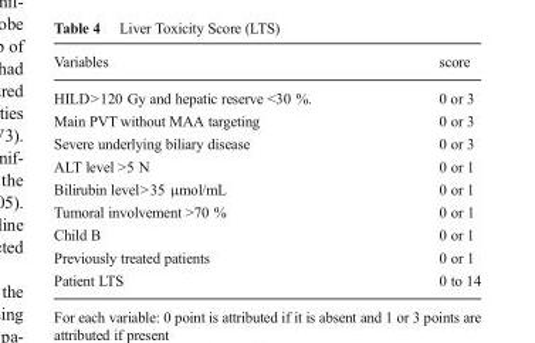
<table><thead><tr><td>Variables</td><td>score</td></tr></thead><tbody><tr><td>HILD&gt;120 Gy and hepatic reserve &lt;30 %.</td><td>0 or 3</td></tr><tr><td>Main PVT without MAA targeting</td><td>0 or 3</td></tr><tr><td>Severe underlying biliary disease</td><td>0 or 3</td></tr><tr><td>ALT level &gt;5 N</td><td>0 or 1</td></tr><tr><td>Bilirubin level&gt;35 μmol/mL</td><td>0 or 1</td></tr><tr><td>Tumoral involvement &gt;70 %</td><td>0 or 1</td></tr><tr><td>Child B</td><td>0 or 1</td></tr><tr><td>Previously treated patients</td><td>0 or 1</td></tr><tr><td>Patient LTS</td><td>0 to 14</td></tr></tbody></table>